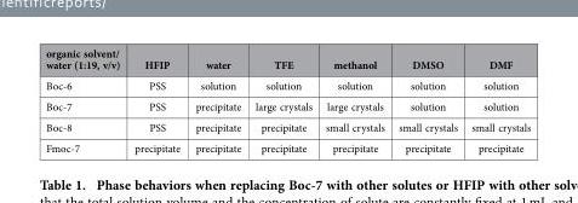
<table><thead><tr><td>organic solvent/ water (1:19, v/v)</td><td>HFIP</td><td>water</td><td>TFE</td><td>methanol</td><td>DMSO</td><td>DMF</td></tr></thead><tbody><tr><td>Boc-6</td><td>PSS</td><td>solution</td><td>solution</td><td>solution</td><td>solution</td><td>solution</td></tr><tr><td>Boc-7</td><td>PSS</td><td>precipitate</td><td>large crystals</td><td>large crystals</td><td>solution</td><td>solution</td></tr><tr><td>Boc-8</td><td>PSS</td><td>precipitate</td><td>precipitate</td><td>small crystals</td><td>small crystals</td><td>small crystals</td></tr><tr><td>Fmoc-7</td><td>precipitate</td><td>precipitate</td><td>precipitate</td><td>precipitate</td><td>precipitate</td><td>precipitate</td></tr></tbody></table>